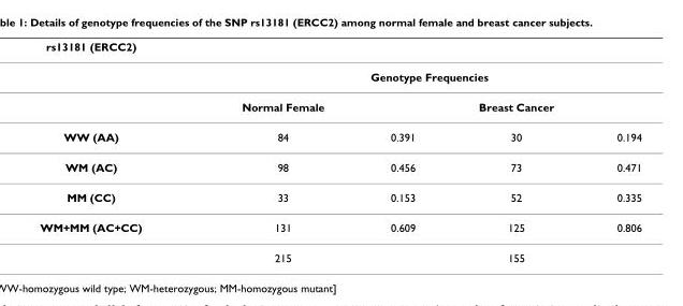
<table><thead><tr><td>rs13181 (ERCC2)</td><td></td><td></td><td></td><td></td></tr></thead><tbody><tr><td></td><td colspan="4">Genotype Frequencies</td></tr><tr><td></td><td>Normal Female</td><td></td><td>Breast Cancer</td><td></td></tr><tr><td>WW (AA)</td><td>84</td><td>0.391</td><td>30</td><td>0.194</td></tr><tr><td>WM (AC)</td><td>98</td><td>0.456</td><td>73</td><td>0.471</td></tr><tr><td>MM (CC)</td><td>33</td><td>0.153</td><td>52</td><td>0.335</td></tr><tr><td rowspan="2">WM+MM (AC+CC)</td><td>131</td><td>0.609</td><td>125</td><td>0.806</td></tr><tr><td>215</td><td></td><td>155</td><td></td></tr></tbody></table>